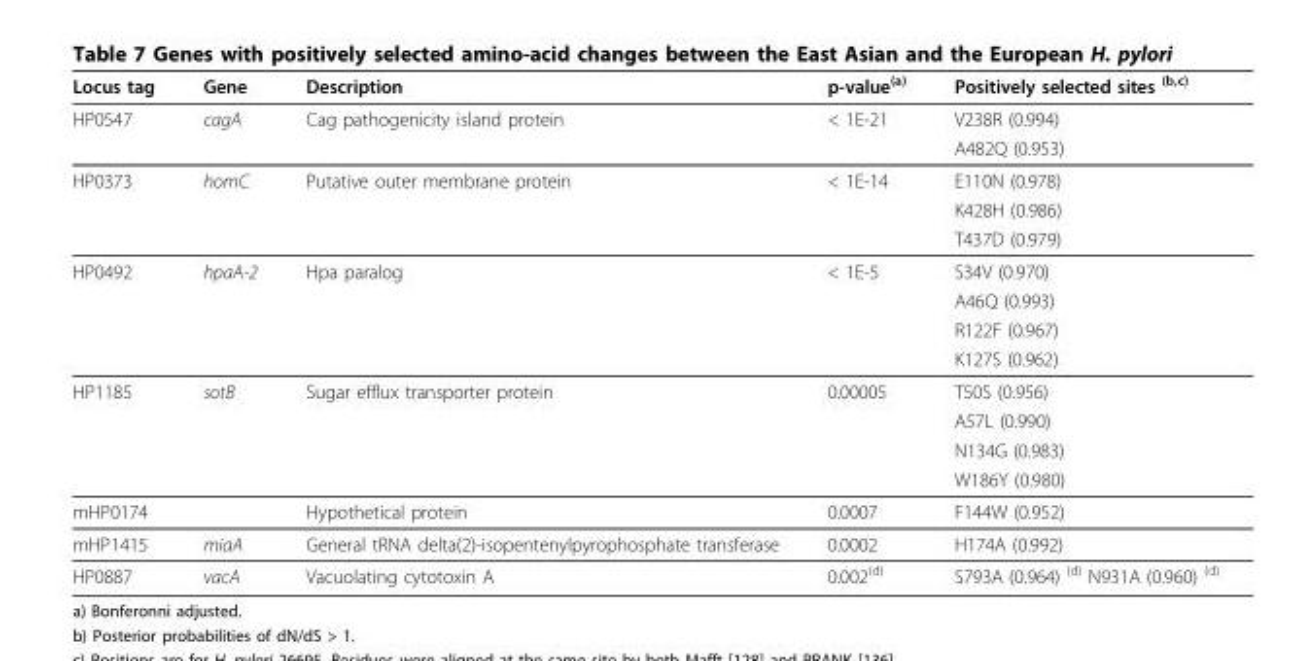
<table><thead><tr><td>Locus tag</td><td>Gene</td><td>Description</td><td>p-value(a)</td><td>Positively selected sites (b,c)</td></tr></thead><tbody><tr><td rowspan="2">HP0547</td><td>cagA</td><td>Cag pathogenicity island protein</td><td>&lt; 1E-21</td><td>V238R (0.994)</td></tr><tr><td></td><td></td><td></td><td>A482Q (0.953)</td></tr><tr><td rowspan="3">HP0373</td><td>homC</td><td>Putative outer membrane protein</td><td>&lt; 1E-14</td><td>E110N (0.978)</td></tr><tr><td></td><td></td><td></td><td>K428H (0.986)</td></tr><tr><td></td><td></td><td></td><td>T437D (0.979)</td></tr><tr><td rowspan="4">HP0492</td><td>hpaA-2</td><td>Hpa paralog</td><td>&lt; 1E-5</td><td>S34V (0.970)</td></tr><tr><td></td><td></td><td></td><td>A46Q (0.993)</td></tr><tr><td></td><td></td><td></td><td>R122F (0.967)</td></tr><tr><td></td><td></td><td></td><td>K127S (0.962)</td></tr><tr><td rowspan="4">HP1185</td><td>sotB</td><td>Sugar efflux transporter protein</td><td>0.00005</td><td>T50S (0.956)</td></tr><tr><td></td><td></td><td></td><td>A57L (0.990)</td></tr><tr><td></td><td></td><td></td><td>N134G (0.983)</td></tr><tr><td></td><td></td><td></td><td>W186Y (0.980)</td></tr><tr><td>mHP0174</td><td></td><td>Hypothetical protein</td><td>0.0007</td><td>F144W (0.952)</td></tr><tr><td>mHP1415</td><td>miaA</td><td>General tRNA delta(2)-isopentenylpyrophosphate transferase</td><td>0.0002</td><td>H174A (0.992)</td></tr><tr><td>HP0887</td><td>vacA</td><td>Vacuolating cytotoxin A</td><td>0.002(d)</td><td>S793A (0.964) (d) N931A (0.960) (d)</td></tr></tbody></table>